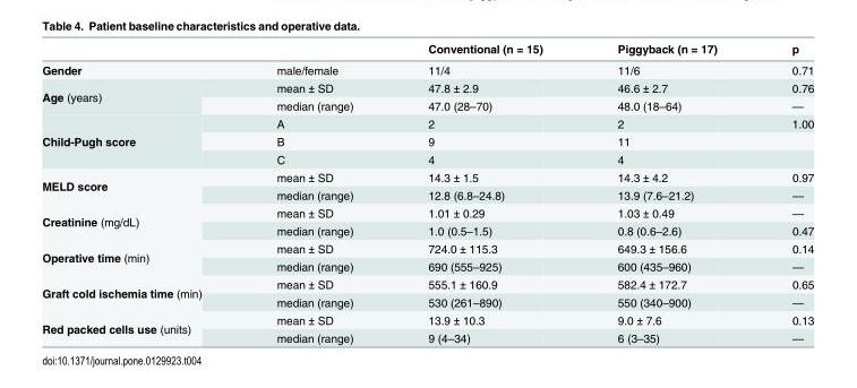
<table><thead><tr><td></td><td></td><td>Conventional (n = 15)</td><td>Piggyback (n = 17)</td><td>p</td></tr></thead><tbody><tr><td>Gender</td><td>male/female</td><td>11/4</td><td>11/6</td><td>0.71</td></tr><tr><td rowspan="2">Age (years)</td><td>mean ± SD</td><td>47.8 ± 2.9</td><td>46.6 ± 2.7</td><td>0.76</td></tr><tr><td>median (range)</td><td>47.0 (28–70)</td><td>48.0 (18–64)</td><td>—</td></tr><tr><td rowspan="3">Child-Pugh score</td><td>A</td><td>2</td><td>2</td><td>1.00</td></tr><tr><td>B</td><td>9</td><td>11</td><td></td></tr><tr><td>C</td><td>4</td><td>4</td><td></td></tr><tr><td rowspan="2">MELD score</td><td>mean ± SD</td><td>14.3 ± 1.5</td><td>14.3 ± 4.2</td><td>0.97</td></tr><tr><td>median (range)</td><td>12.8 (6.8–24.8)</td><td>13.9 (7.6–21.2)</td><td>—</td></tr><tr><td rowspan="2">Creatinine (mg/dL)</td><td>mean ± SD</td><td>1.01 ± 0.29</td><td>1.03 ± 0.49</td><td>—</td></tr><tr><td>median (range)</td><td>1.0 (0.5–1.5)</td><td>0.8 (0.6–2.6)</td><td>0.47</td></tr><tr><td rowspan="2">Operative time (min)</td><td>mean ± SD</td><td>724.0 ± 115.3</td><td>649.3 ± 156.6</td><td>0.14</td></tr><tr><td>median (range)</td><td>690 (555–925)</td><td>600 (435–960)</td><td>—</td></tr><tr><td rowspan="2">Graft cold ischemia time (min)</td><td>mean ± SD</td><td>555.1 ± 160.9</td><td>582.4 ± 172.7</td><td>0.65</td></tr><tr><td>median (range)</td><td>530 (261–890)</td><td>550 (340–900)</td><td>—</td></tr><tr><td rowspan="2">Red packed cells use (units)</td><td>mean ± SD</td><td>13.9 ± 10.3</td><td>9.0 ± 7.6</td><td>0.13</td></tr><tr><td>median (range)</td><td>9 (4–34)</td><td>6 (3–35)</td><td>—</td></tr></tbody></table>